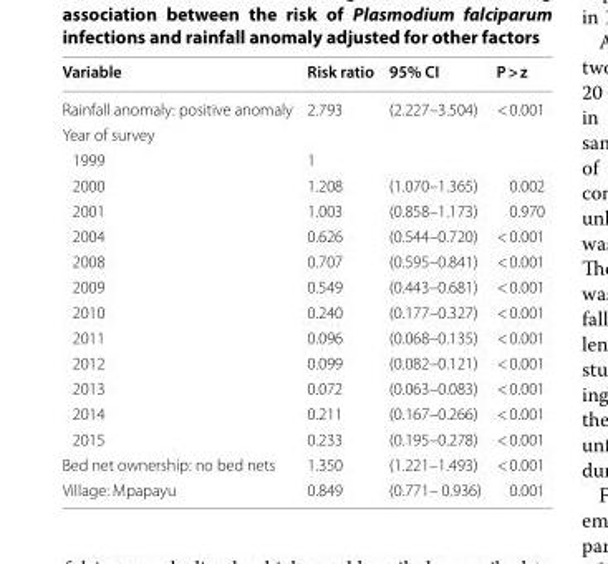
<table><thead><tr><td>Variable</td><td>Risk ratio</td><td>95% CI</td><td>P &gt; z</td></tr></thead><tbody><tr><td>Rainfall anomaly: positive anomaly</td><td>2.793</td><td>(2.227–3.504)</td><td>&lt; 0.001</td></tr><tr><td colspan="4">Year of survey</td></tr><tr><td>1999</td><td>1</td><td></td><td></td></tr><tr><td>2000</td><td>1.208</td><td>(1.070–1.365)</td><td>0.002</td></tr><tr><td>2001</td><td>1.003</td><td>(0.858–1.173)</td><td>0.970</td></tr><tr><td>2004</td><td>0.626</td><td>(0.544–0.720)</td><td>&lt; 0.001</td></tr><tr><td>2008</td><td>0.707</td><td>(0.595–0.841)</td><td>&lt; 0.001</td></tr><tr><td>2009</td><td>0.549</td><td>(0.443–0.681)</td><td>&lt; 0.001</td></tr><tr><td>2010</td><td>0.240</td><td>(0.177–0.327)</td><td>&lt; 0.001</td></tr><tr><td>2011</td><td>0.096</td><td>(0.068–0.135)</td><td>&lt; 0.001</td></tr><tr><td>2012</td><td>0.099</td><td>(0.082–0.121)</td><td>&lt; 0.001</td></tr><tr><td>2013</td><td>0.072</td><td>(0.063–0.083)</td><td>&lt; 0.001</td></tr><tr><td>2014</td><td>0.211</td><td>(0.167–0.266)</td><td>&lt; 0.001</td></tr><tr><td>2015</td><td>0.233</td><td>(0.195–0.278)</td><td>&lt; 0.001</td></tr><tr><td>Bed net ownership: no bed nets</td><td>1.350</td><td>(1.221–1.493)</td><td>&lt; 0.001</td></tr><tr><td>Village: Mpapayu</td><td>0.849</td><td>(0.771– 0.936)</td><td>0.001</td></tr></tbody></table>